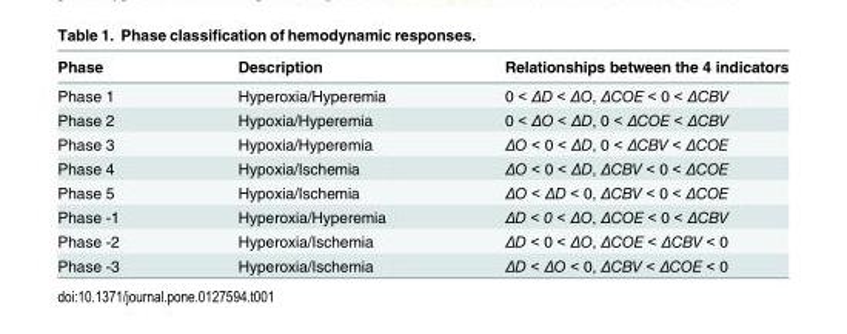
<table><thead><tr><td>Phase</td><td>Description</td><td>Relationships between the 4 indicators</td></tr></thead><tbody><tr><td>Phase 1</td><td>Hyperoxia/Hyperemia</td><td>0 &lt; ΔD &lt; ΔO, ΔCOE &lt; 0 &lt; ΔCBV</td></tr><tr><td>Phase 2</td><td>Hypoxia/Hyperemia</td><td>0 &lt; ΔO &lt; ΔD, 0 &lt; ΔCOE &lt; ΔCBV</td></tr><tr><td>Phase 3</td><td>Hypoxia/Hyperemia</td><td>ΔO &lt; 0 &lt; ΔD, 0 &lt; ΔCBV &lt; ΔCOE</td></tr><tr><td>Phase 4</td><td>Hypoxia/Ischemia</td><td>ΔO &lt; 0 &lt; ΔD, ΔCBV &lt; 0 &lt; ΔCOE</td></tr><tr><td>Phase 5</td><td>Hypoxia/Ischemia</td><td>ΔO &lt; ΔD &lt; 0, ΔCBV &lt; 0 &lt; ΔCOE</td></tr><tr><td>Phase -1</td><td>Hyperoxia/Hyperemia</td><td>ΔD &lt; 0 &lt; ΔO, ΔCOE &lt; 0 &lt; ΔCBV</td></tr><tr><td>Phase -2</td><td>Hyperoxia/Ischemia</td><td>ΔD &lt; 0 &lt; ΔO, ΔCOE &lt; ΔCBV &lt; 0</td></tr><tr><td>Phase -3</td><td>Hyperoxia/Ischemia</td><td>ΔD &lt; ΔO &lt; 0, ΔCBV &lt; ΔCOE &lt; 0</td></tr></tbody></table>